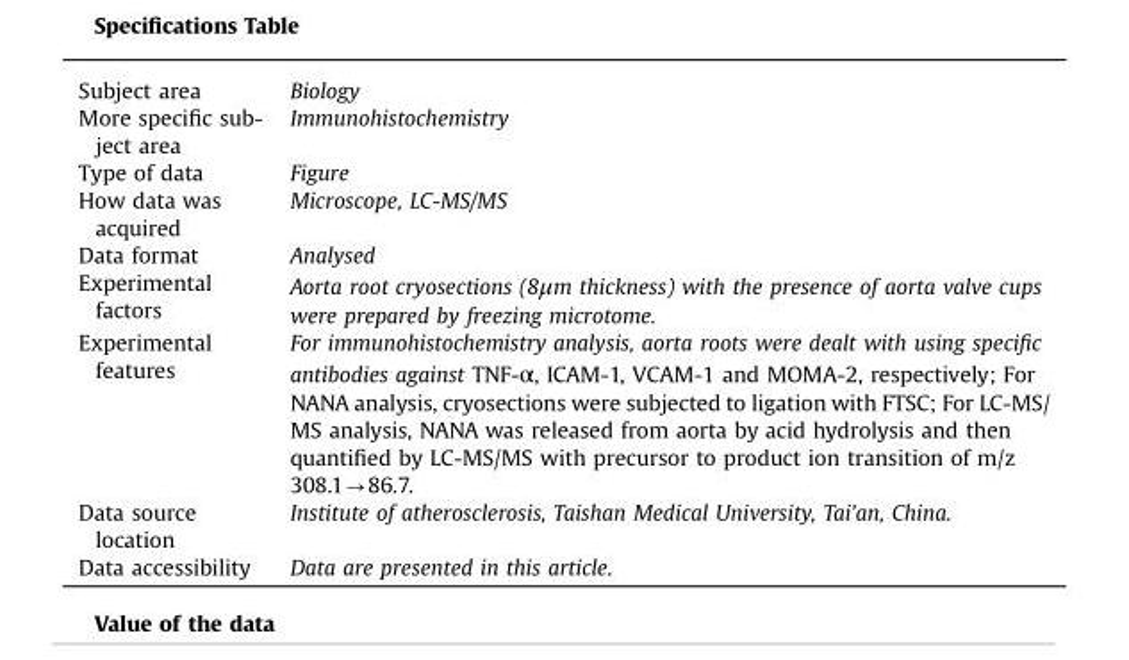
<table><tbody><tr><td>Subject area</td><td>Biology</td></tr><tr><td>More specific sub- ject area</td><td>Immunohistochemistry</td></tr><tr><td>Type of data</td><td>Figure</td></tr><tr><td>How data was acquired</td><td>Microscope, LC-MS/MS</td></tr><tr><td>Data format</td><td>Analysed</td></tr><tr><td>Experimental factors</td><td>Aorta root cryosections (8μm thickness) with the presence of aorta valve cups were prepared by freezing microtome.</td></tr><tr><td>Experimental features</td><td>For immunohistochemistry analysis, aorta roots were dealt with using specific antibodies against TNF-α, ICAM-1, VCAM-1 and MOMA-2, respectively; For NANA analysis, cryosections were subjected to ligation with FTSC; For LC-MS/ MS analysis, NANA was released from aorta by acid hydrolysis and then quantified by LC-MS/MS with precursor to product ion transition of m/z 308.1-86.7.</td></tr><tr><td>Data source location</td><td>Institute of atherosclerosis, Taishan Medical University, Tai’an, China.</td></tr><tr><td>Data accessibility</td><td>Data are presented in this article.</td></tr></tbody></table>